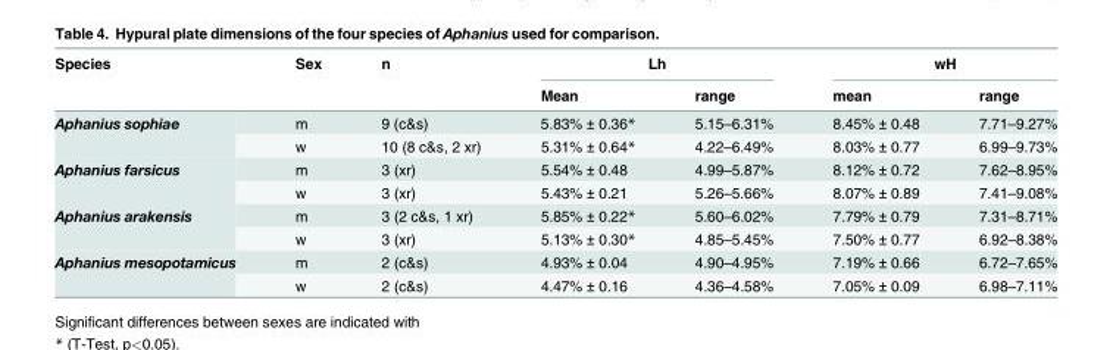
<table><thead><tr><td rowspan="2">Species</td><td rowspan="2">Sex</td><td rowspan="2">n</td><td colspan="2">Lh</td><td colspan="2">wH</td></tr><tr><td>Mean</td><td>range</td><td>mean</td><td>range</td></tr></thead><tbody><tr><td rowspan="2">Aphanius sophiae</td><td>m</td><td>9 (c&amp;s)</td><td>5.83% ± 0.36*</td><td>5.15–6.31%</td><td>8.45% ± 0.48</td><td>7.71–9.27%</td></tr><tr><td>w</td><td>10 (8 c&amp;s, 2 xr)</td><td>5.31% ± 0.64*</td><td>4.22–6.49%</td><td>8.03% ± 0.77</td><td>6.99–9.73%</td></tr><tr><td rowspan="2">Aphanius farsicus</td><td>m</td><td>3 (xr)</td><td>5.54% ± 0.48</td><td>4.99–5.87%</td><td>8.12% ± 0.72</td><td>7.62–8.95%</td></tr><tr><td>w</td><td>3 (xr)</td><td>5.43% ± 0.21</td><td>5.26–5.66%</td><td>8.07% ± 0.89</td><td>7.41–9.08%</td></tr><tr><td rowspan="2">Aphanius arakensis</td><td>m</td><td>3 (2 c&amp;s, 1 xr)</td><td>5.85% ± 0.22*</td><td>5.60–6.02%</td><td>7.79% ± 0.79</td><td>7.31–8.71%</td></tr><tr><td>w</td><td>3 (xr)</td><td>5.13% ± 0.30*</td><td>4.85–5.45%</td><td>7.50% ± 0.77</td><td>6.92–8.38%</td></tr><tr><td rowspan="2">Aphanius mesopotamicus</td><td>m</td><td>2 (c&amp;s)</td><td>4.93% ± 0.04</td><td>4.90–4.95%</td><td>7.19% ± 0.66</td><td>6.72–7.65%</td></tr><tr><td>w</td><td>2 (c&amp;s)</td><td>4.47% ± 0.16</td><td>4.36–4.58%</td><td>7.05% ± 0.09</td><td>6.98–7.11%</td></tr></tbody></table>